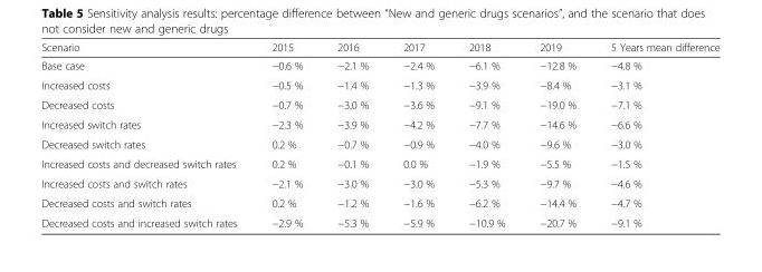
<table><thead><tr><td>Scenario</td><td>2015</td><td>2016</td><td>2017</td><td>2018</td><td>2019</td><td>5 Years mean difference</td></tr></thead><tbody><tr><td>Base case</td><td>−0.6 %</td><td>−2.1 %</td><td>−2.4 %</td><td>−6.1 %</td><td>−12.8 %</td><td>−4.8 %</td></tr><tr><td>Increased costs</td><td>−0.5 %</td><td>−1.4 %</td><td>−1.3 %</td><td>−3.9 %</td><td>−8.4 %</td><td>−3.1 %</td></tr><tr><td>Decreased costs</td><td>−0.7 %</td><td>−3.0 %</td><td>−3.6 %</td><td>−9.1 %</td><td>−19.0 %</td><td>−7.1 %</td></tr><tr><td>Increased switch rates</td><td>−2.3 %</td><td>−3.9 %</td><td>−4.2 %</td><td>−7.7 %</td><td>−14.6 %</td><td>−6.6 %</td></tr><tr><td>Decreased switch rates</td><td>0.2 %</td><td>−0.7 %</td><td>−0.9 %</td><td>−4.0 %</td><td>−9.6 %</td><td>−3.0 %</td></tr><tr><td>Increased costs and decreased switch rates</td><td>0.2 %</td><td>−0.1 %</td><td>0.0 %</td><td>−1.9 %</td><td>−5.5 %</td><td>−1.5 %</td></tr><tr><td>Increased costs and switch rates</td><td>−2.1 %</td><td>−3.0 %</td><td>−3.0 %</td><td>−5.3 %</td><td>−9.7 %</td><td>−4.6 %</td></tr><tr><td>Decreased costs and switch rates</td><td>0.2 %</td><td>−1.2 %</td><td>−1.6 %</td><td>−6.2 %</td><td>−14.4 %</td><td>−4.7 %</td></tr><tr><td>Decreased costs and increased switch rates</td><td>−2.9 %</td><td>−5.3 %</td><td>−5.9 %</td><td>−10.9 %</td><td>−20.7 %</td><td>−9.1 %</td></tr></tbody></table>